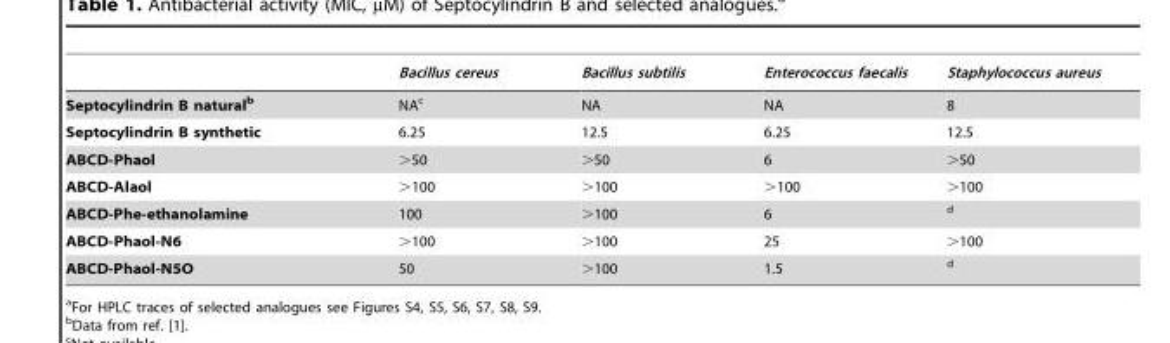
<table><thead><tr><td></td><td>Bacillus cereus</td><td>Bacillus subtilis</td><td>Enterococcus faecalis</td><td>Staphylococcus aureus</td></tr></thead><tbody><tr><td>Septocylindrin B naturalb</td><td>NA<sup>c</sup></td><td>NA</td><td>NA</td><td>8</td></tr><tr><td>Septocylindrin B synthetic</td><td>6.25</td><td>12.5</td><td>6.25</td><td>12.5</td></tr><tr><td>ABCD-Phaol</td><td>&gt;50</td><td>&gt;50</td><td>6</td><td>&gt;50</td></tr><tr><td>ABCD-Alaol</td><td>&gt;100</td><td>&gt;100</td><td>&gt;100</td><td>&gt;100</td></tr><tr><td>ABCD-Phe-ethanolamine</td><td>100</td><td>&gt;100</td><td>6</td><td>d</td></tr><tr><td>ABCD-Phaol-N6</td><td>&gt;100</td><td>&gt;100</td><td>25</td><td>&gt;100</td></tr><tr><td>ABCD-Phaol-N5O</td><td>50</td><td>&gt;100</td><td>1.5</td><td>d</td></tr></tbody></table>